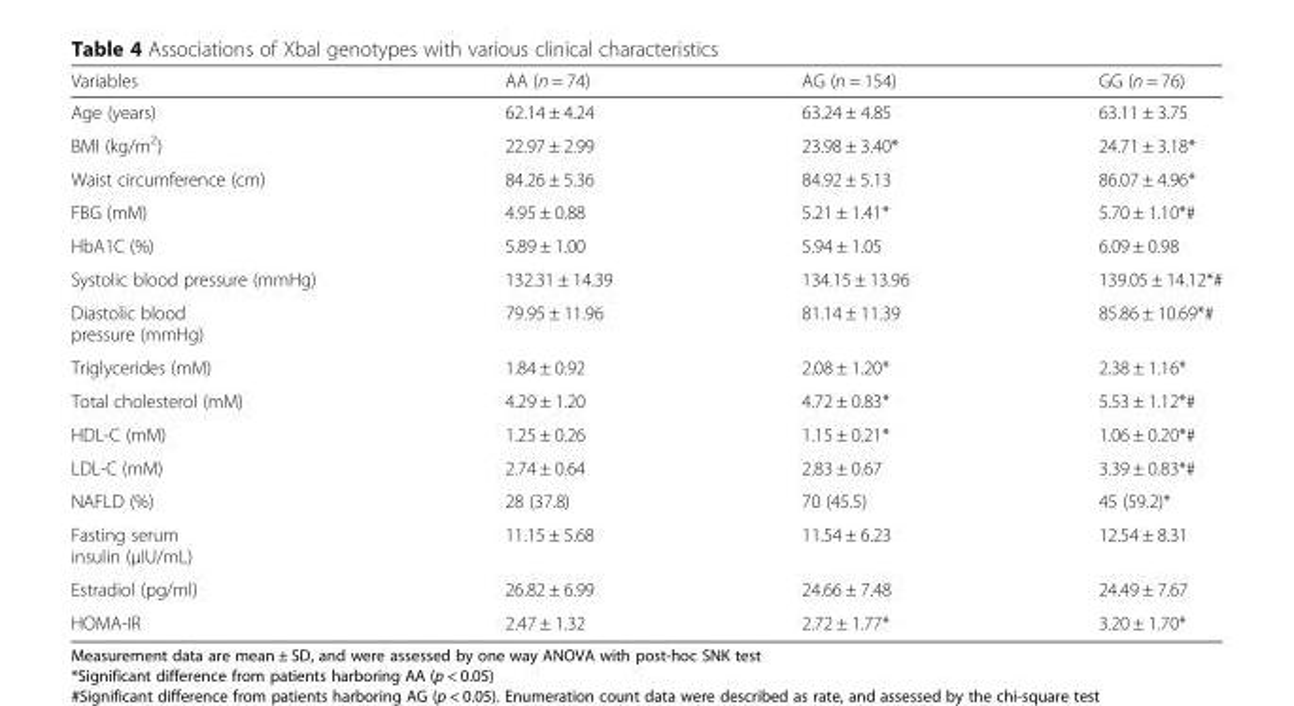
<table><thead><tr><td>Variables</td><td>AA (n = 74)</td><td>AG (n = 154)</td><td>GG (n = 76)</td></tr></thead><tbody><tr><td>Age (years)</td><td>62.14 ± 4.24</td><td>63.24 ± 4.85</td><td>63.11 ± 3.75</td></tr><tr><td>BMI (kg/m<sup>2</sup>)</td><td>22.97 ± 2.99</td><td>23.98 ± 3.40*</td><td>24.71 ± 3.18*</td></tr><tr><td>Waist circumference (cm)</td><td>84.26 ± 5.36</td><td>84.92 ± 5.13</td><td>86.07 ± 4.96*</td></tr><tr><td>FBG (mM)</td><td>4.95 ± 0.88</td><td>5.21 ± 1.41*</td><td>5.70 ± 1.10*#</td></tr><tr><td>HbA1C (%)</td><td>5.89 ± 1.00</td><td>5.94 ± 1.05</td><td>6.09 ± 0.98</td></tr><tr><td>Systolic blood pressure (mmHg)</td><td>132.31 ± 14.39</td><td>134.15 ± 13.96</td><td>139.05 ± 14.12*#</td></tr><tr><td>Diastolic blood pressure (mmHg)</td><td>79.95 ± 11.96</td><td>81.14 ± 11.39</td><td>85.86 ± 10.69*#</td></tr><tr><td>Triglycerides (mM)</td><td>1.84 ± 0.92</td><td>2.08 ± 1.20*</td><td>2.38 ± 1.16*</td></tr><tr><td>Total cholesterol (mM)</td><td>4.29 ± 1.20</td><td>4.72 ± 0.83*</td><td>5.53 ± 1.12*#</td></tr><tr><td>HDL-C (mM)</td><td>1.25 ± 0.26</td><td>1.15 ± 0.21*</td><td>1.06 ± 0.20*#</td></tr><tr><td>LDL-C (mM)</td><td>2.74 ± 0.64</td><td>2.83 ± 0.67</td><td>3.39 ± 0.83*#</td></tr><tr><td>NAFLD (%)</td><td>28 (37.8)</td><td>70 (45.5)</td><td>45 (59.2)*</td></tr><tr><td>Fasting serum insulin (μIU/mL)</td><td>11.15 ± 5.68</td><td>11.54 ± 6.23</td><td>12.54 ± 8.31</td></tr><tr><td>Estradiol (pg/ml)</td><td>26.82 ± 6.99</td><td>24.66 ± 7.48</td><td>24.49 ± 7.67</td></tr><tr><td>HOMA-IR</td><td>2.47 ± 1.32</td><td>2.72 ± 1.77*</td><td>3.20 ± 1.70*</td></tr></tbody></table>